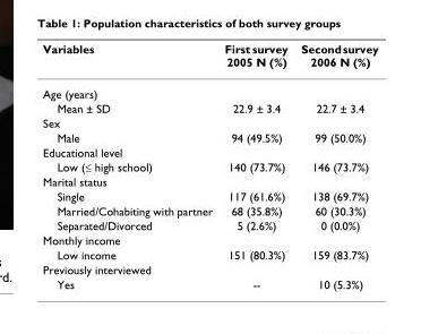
<table><thead><tr><td>Variables</td><td>First survey 2005 N (%)</td><td>Second survey 2006 N (%)</td></tr></thead><tbody><tr><td colspan="3">Age (years)</td></tr><tr><td>Mean ± SD</td><td>22.9 ± 3.4</td><td>22.7 ± 3.4</td></tr><tr><td colspan="3">Sex</td></tr><tr><td>Male</td><td>94 (49.5%)</td><td>99 (50.0%)</td></tr><tr><td colspan="3">Educational level</td></tr><tr><td>Low (≤ high school)</td><td>140 (73.7%)</td><td>146 (73.7%)</td></tr><tr><td colspan="3">Marital status</td></tr><tr><td>Single</td><td>117 (61.6%)</td><td>138 (69.7%)</td></tr><tr><td>Married/Cohabiting with partner</td><td>68 (35.8%)</td><td>60 (30.3%)</td></tr><tr><td>Separated/Divorced</td><td>5 (2.6%)</td><td>0 (0.0%)</td></tr><tr><td colspan="3">Monthly income</td></tr><tr><td>Low income</td><td>151 (80.3%)</td><td>159 (83.7%)</td></tr><tr><td colspan="3">Previously interviewed</td></tr><tr><td>Yes</td><td>--</td><td>10 (5.3%)</td></tr></tbody></table>